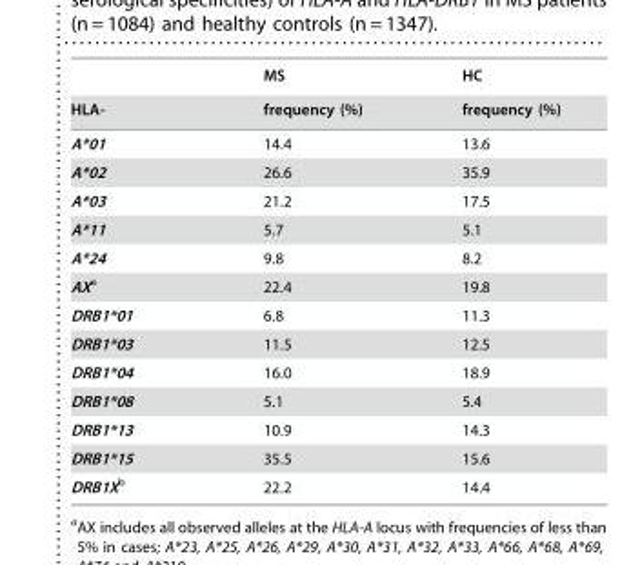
<table><thead><tr><td rowspan="2">HLA-</td><td rowspan="2">MS frequency (%)</td><td rowspan="2">HC frequency (%)</td></tr><tr></tr></thead><tbody><tr><td>A*01</td><td>14.4</td><td>13.6</td></tr><tr><td>A*02</td><td>26.6</td><td>35.9</td></tr><tr><td>A*03</td><td>21.2</td><td>17.5</td></tr><tr><td>A*11</td><td>5.7</td><td>5.1</td></tr><tr><td>A*24</td><td>9.8</td><td>8.2</td></tr><tr><td>AXa</td><td>22.4</td><td>19.8</td></tr><tr><td>DRB1*01</td><td>6.8</td><td>11.3</td></tr><tr><td>DRB1*03</td><td>11.5</td><td>12.5</td></tr><tr><td>DRB1*04</td><td>16.0</td><td>18.9</td></tr><tr><td>DRB1*08</td><td>5.1</td><td>5.4</td></tr><tr><td>DRB1*13</td><td>10.9</td><td>14.3</td></tr><tr><td>DRB1*15</td><td>35.5</td><td>15.6</td></tr><tr><td>DRB1Xb</td><td>22.2</td><td>14.4</td></tr></tbody></table>